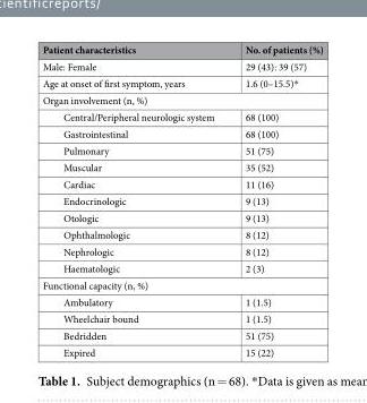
<table><thead><tr><td>Patient characteristics</td><td>No. of patients (%)</td></tr></thead><tbody><tr><td>Male: Female</td><td>29 (43): 39 (57)</td></tr><tr><td>Age at onset of first symptom, years</td><td>1.6 (0–15.5)*</td></tr><tr><td colspan="2">Organ involvement (n, %)</td></tr><tr><td>Central/Peripheral neurologic system</td><td>68 (100)</td></tr><tr><td>Gastrointestinal</td><td>68 (100)</td></tr><tr><td>Pulmonary</td><td>51 (75)</td></tr><tr><td>Muscular</td><td>35 (52)</td></tr><tr><td>Cardiac</td><td>11 (16)</td></tr><tr><td>Endocrinologic</td><td>9 (13)</td></tr><tr><td>Otologic</td><td>9 (13)</td></tr><tr><td>Ophthalmologic</td><td>8 (12)</td></tr><tr><td>Nephrologic</td><td>8 (12)</td></tr><tr><td>Haematologic</td><td>2 (3)</td></tr><tr><td colspan="2">Functional capacity (n, %)</td></tr><tr><td>Ambulatory</td><td>1 (1.5)</td></tr><tr><td>Wheelchair bound</td><td>1 (1.5)</td></tr><tr><td>Bedridden</td><td>51 (75)</td></tr><tr><td>Expired</td><td>15 (22)</td></tr></tbody></table>